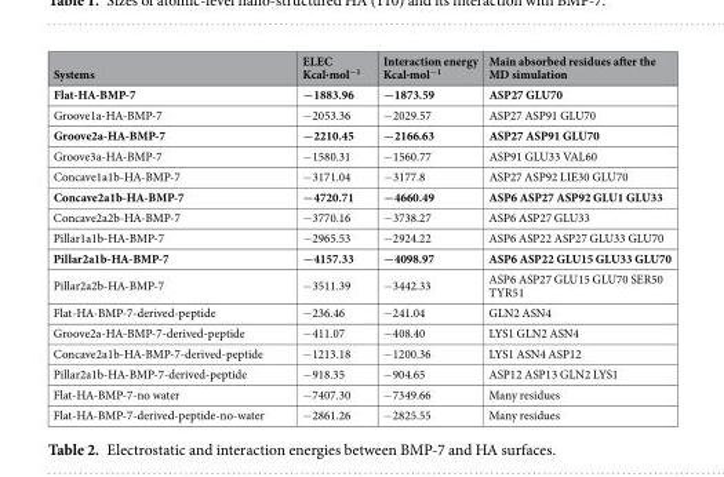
<table><thead><tr><td>Systems</td><td>ELEC Kcal·mol<sup>−1</sup></td><td>Interaction energy Kcal·mol<sup>−1</sup></td><td>Main absorbed residues after the MD simulation</td></tr></thead><tbody><tr><td>Flat-HA-BMP-7</td><td>−1883.96</td><td>−1873.59</td><td>ASP27 GLU70</td></tr><tr><td>Groove1a-HA-BMP-7</td><td>−2053.36</td><td>−2029.57</td><td>ASP27 ASP91 GLU70</td></tr><tr><td>Groove2a-HA-BMP-7</td><td>−2210.45</td><td>−2166.63</td><td>ASP27 ASP91 GLU70</td></tr><tr><td>Groove3a-HA-BMP-7</td><td>−1580.31</td><td>−1560.77</td><td>ASP91 GLU33 VAL60</td></tr><tr><td>Concave1a1b-HA-BMP-7</td><td>−3171.04</td><td>−3177.8</td><td>ASP27 ASP92 LIE30 GLU70</td></tr><tr><td>Concave2a1b-HA-BMP-7</td><td>−4720.71</td><td>−4660.49</td><td>ASP6 ASP27 ASP92 GLU1 GLU33</td></tr><tr><td>Concave2a2b-HA-BMP-7</td><td>−3770.16</td><td>−3738.27</td><td>ASP6 ASP27 GLU33</td></tr><tr><td>Pillar1a1b-HA-BMP-7</td><td>−2965.53</td><td>−2924.22</td><td>ASP6 ASP22 ASP27 GLU33 GLU70</td></tr><tr><td>Pillar2a1b-HA-BMP-7</td><td>−4157.33</td><td>−4098.97</td><td>ASP6 ASP22 GLU15 GLU33 GLU70</td></tr><tr><td>Pillar2a2b-HA-BMP-7</td><td>−3511.39</td><td>−3442.33</td><td>ASP6 ASP27 GLU15 GLU70 SER50 TYR51</td></tr><tr><td>Flat-HA-BMP-7-derived-peptide</td><td>−236.46</td><td>−241.04</td><td>GLN2 ASN4</td></tr><tr><td>Groove2a-HA-BMP-7-derived-peptide</td><td>−411.07</td><td>−408.40</td><td>LYS1 GLN2 ASN4</td></tr><tr><td>Concave2a1b-HA-BMP-7-derived-peptide</td><td>−1213.18</td><td>−1200.36</td><td>LYS1 ASN4 ASP12</td></tr><tr><td>Pillar2a1b-HA-BMP-7-derived-peptide</td><td>−918.35</td><td>−904.65</td><td>ASP12 ASP13 GLN2 LYS1</td></tr><tr><td>Flat-HA-BMP-7-no water</td><td>−7407.30</td><td>−7349.66</td><td>Many residues</td></tr><tr><td>Flat-HA-BMP-7-derived-peptide-no-water</td><td>−2861.26</td><td>−2825.55</td><td>Many residues</td></tr></tbody></table>